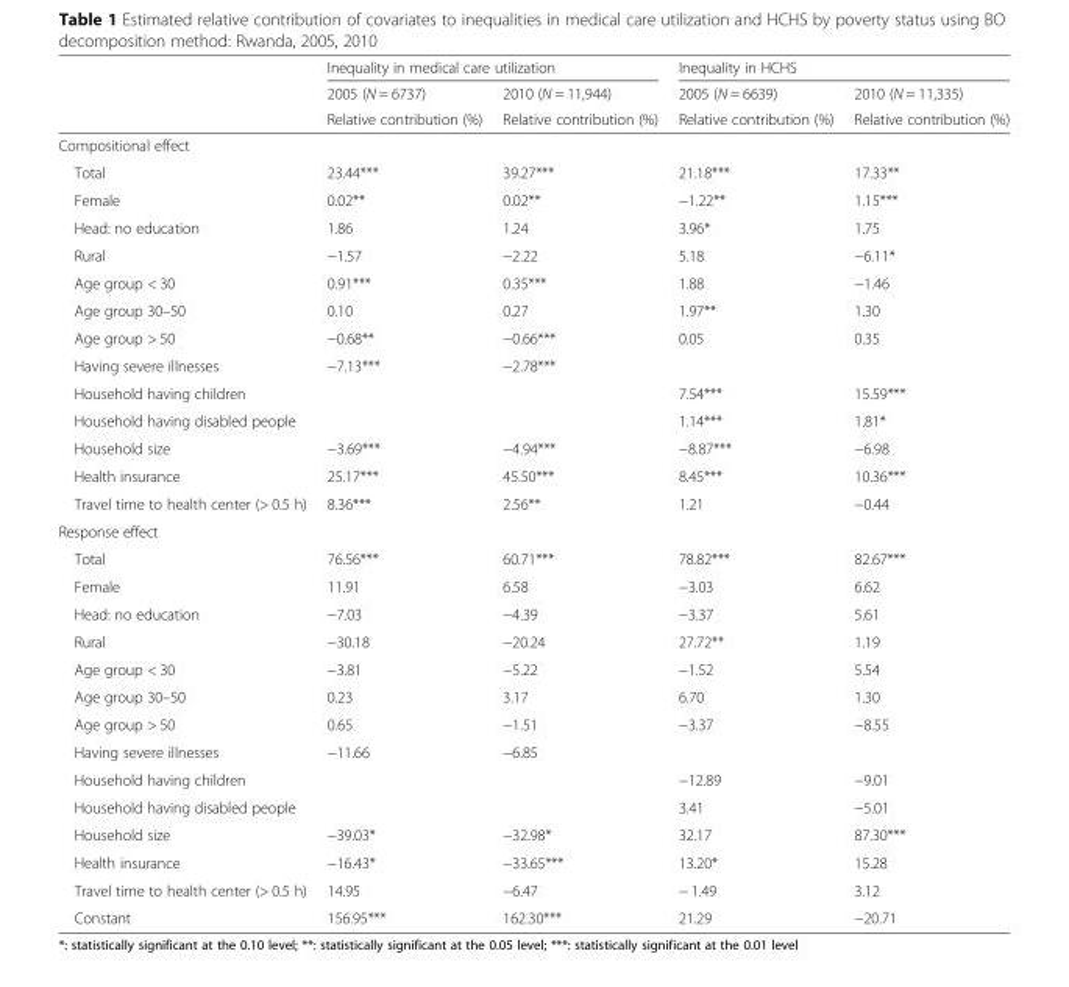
<table><thead><tr><td rowspan="3"></td><td colspan="2">Inequality in medical care utilization</td><td colspan="2">Inequality in HCHS</td></tr><tr><td rowspan="2">2005 (N = 6737) Relative contribution (%)</td><td rowspan="2">2010 (N = 11,944) Relative contribution (%)</td><td rowspan="2">2005 (N = 6639) Relative contribution (%)</td><td rowspan="2">2010 (N = 11,335) Relative contribution (%)</td></tr><tr></tr></thead><tbody><tr><td colspan="5">Compositional effect</td></tr><tr><td>Total</td><td>23.44***</td><td>39.27***</td><td>21.18***</td><td>17.33**</td></tr><tr><td>Female</td><td>0.02**</td><td>0.02**</td><td>−1.22**</td><td>1.15***</td></tr><tr><td>Head: no education</td><td>1.86</td><td>1.24</td><td>3.96*</td><td>1.75</td></tr><tr><td>Rural</td><td>−1.57</td><td>−2.22</td><td>5.18</td><td>−6.11*</td></tr><tr><td>Age group &lt; 30</td><td>0.91***</td><td>0.35***</td><td>1.88</td><td>−1.46</td></tr><tr><td>Age group 30–50</td><td>0.10</td><td>0.27</td><td>1.97**</td><td>1.30</td></tr><tr><td>Age group &gt; 50</td><td>−0.68**</td><td>−0.66***</td><td>0.05</td><td>0.35</td></tr><tr><td>Having severe illnesses</td><td>−7.13***</td><td>−2.78***</td><td></td><td></td></tr><tr><td>Household having children</td><td></td><td></td><td>7.54***</td><td>15.59***</td></tr><tr><td>Household having disabled people</td><td></td><td></td><td>1.14***</td><td>1.81*</td></tr><tr><td>Household size</td><td>−3.69***</td><td>−4.94***</td><td>−8.87***</td><td>−6.98</td></tr><tr><td>Health insurance</td><td>25.17***</td><td>45.50***</td><td>8.45***</td><td>10.36***</td></tr><tr><td>Travel time to health center (&gt; 0.5 h)</td><td>8.36***</td><td>2.56**</td><td>1.21</td><td>−0.44</td></tr><tr><td colspan="5">Response effect</td></tr><tr><td>Total</td><td>76.56***</td><td>60.71***</td><td>78.82***</td><td>82.67***</td></tr><tr><td>Female</td><td>11.91</td><td>6.58</td><td>−3.03</td><td>6.62</td></tr><tr><td>Head: no education</td><td>−7.03</td><td>−4.39</td><td>−3.37</td><td>5.61</td></tr><tr><td>Rural</td><td>−30.18</td><td>−20.24</td><td>27.72**</td><td>1.19</td></tr><tr><td>Age group &lt; 30</td><td>−3.81</td><td>−5.22</td><td>−1.52</td><td>5.54</td></tr><tr><td>Age group 30–50</td><td>0.23</td><td>3.17</td><td>6.70</td><td>1.30</td></tr><tr><td>Age group &gt; 50</td><td>0.65</td><td>−1.51</td><td>−3.37</td><td>−8.55</td></tr><tr><td>Having severe illnesses</td><td>−11.66</td><td>−6.85</td><td></td><td></td></tr><tr><td>Household having children</td><td></td><td></td><td>−12.89</td><td>−9.01</td></tr><tr><td>Household having disabled people</td><td></td><td></td><td>3.41</td><td>−5.01</td></tr><tr><td>Household size</td><td>−39.03*</td><td>−32.98*</td><td>32.17</td><td>87.30***</td></tr><tr><td>Health insurance</td><td>−16.43*</td><td>−33.65***</td><td>13.20*</td><td>15.28</td></tr><tr><td>Travel time to health center (&gt; 0.5 h)</td><td>14.95</td><td>−6.47</td><td>− 1.49</td><td>3.12</td></tr><tr><td>Constant</td><td>156.95***</td><td>162.30***</td><td>21.29</td><td>−20.71</td></tr></tbody></table>